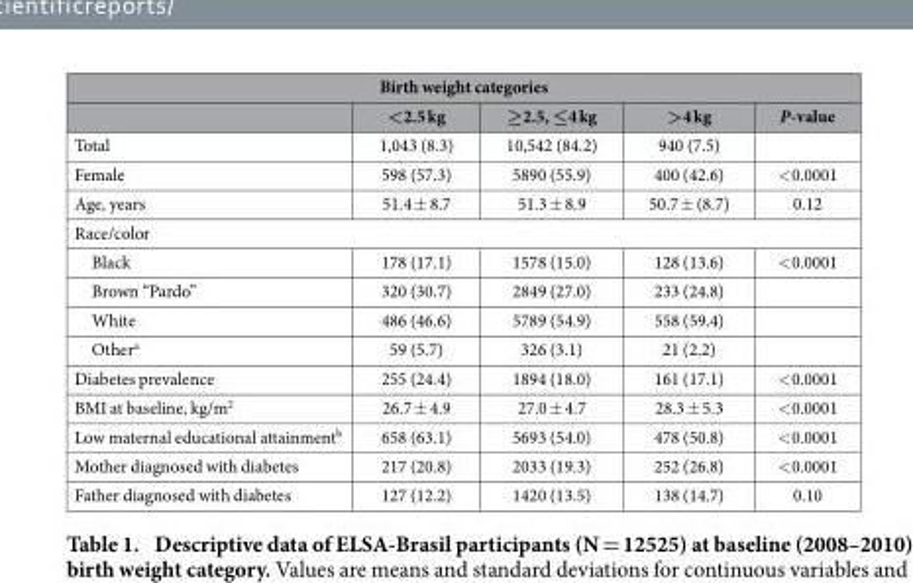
<table><thead><tr><td colspan="5">Birth weight categories</td></tr><tr><td></td><td>&lt;2.5 kg</td><td>≥2.5, ≤4 kg</td><td>&gt;4 kg</td><td>P-value</td></tr></thead><tbody><tr><td>Total</td><td>1,043 (8.3)</td><td>10,542 (84.2)</td><td>940 (7.5)</td><td></td></tr><tr><td>Female</td><td>598 (57.3)</td><td>5890 (55.9)</td><td>400 (42.6)</td><td>&lt; 0.0001</td></tr><tr><td>Age, years</td><td>51.4 ± 8.7</td><td>51.3 ± 8.9</td><td>50.7 ± (8.7)</td><td>0.12</td></tr><tr><td colspan="5">Race/color</td></tr><tr><td>Black</td><td>178 (17.1)</td><td>1578 (15.0)</td><td>128 (13.6)</td><td>&lt; 0.0001</td></tr><tr><td>Brown “Pardo”</td><td>320 (30.7)</td><td>2849 (27.0)</td><td>233 (24.8)</td><td></td></tr><tr><td>White</td><td>486 (46.6)</td><td>5789 (54.9)</td><td>558 (59.4)</td><td></td></tr><tr><td>Other<sup>a</sup></td><td>59 (5.7)</td><td>326 (3.1)</td><td>21 (2.2)</td><td></td></tr><tr><td>Diabetes prevalence</td><td>255 (24.4)</td><td>1894 (18.0)</td><td>161 (17.1)</td><td>&lt; 0.0001</td></tr><tr><td>BMI at baseline, kg/m<sup>2</sup></td><td>26.7 ± 4.9</td><td>27.0 ± 4.7</td><td>28.3 ± 5.3</td><td>&lt; 0.0001</td></tr><tr><td>Low maternal educational attainment<sup>b</sup></td><td>658 (63.1)</td><td>5693 (54.0)</td><td>478 (50.8)</td><td>&lt; 0.0001</td></tr><tr><td>Mother diagnosed with diabetes</td><td>217 (20.8)</td><td>2033 (19.3)</td><td>252 (26.8)</td><td>&lt; 0.0001</td></tr><tr><td>Father diagnosed with diabetes</td><td>127 (12.2)</td><td>1420 (13.5)</td><td>138 (14.7)</td><td>0.10</td></tr></tbody></table>